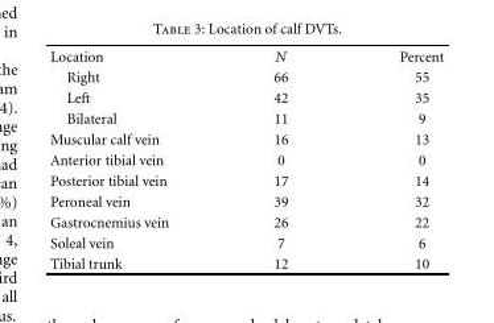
<table><tbody><tr><td>Location</td><td>N</td><td>Percent</td></tr><tr><td>Right</td><td>66</td><td>55</td></tr><tr><td>Left</td><td>42</td><td>35</td></tr><tr><td>Bilateral</td><td>11</td><td>9</td></tr><tr><td>Muscular calf vein</td><td>16</td><td>13</td></tr><tr><td>Anterior tibial vein</td><td>0</td><td>0</td></tr><tr><td>Posterior tibial vein</td><td>17</td><td>14</td></tr><tr><td>Peroneal vein</td><td>39</td><td>32</td></tr><tr><td>Gastrocnemius vein</td><td>26</td><td>22</td></tr><tr><td>Soleal vein</td><td>7</td><td>6</td></tr><tr><td>Tibial trunk</td><td>12</td><td>10</td></tr></tbody></table>